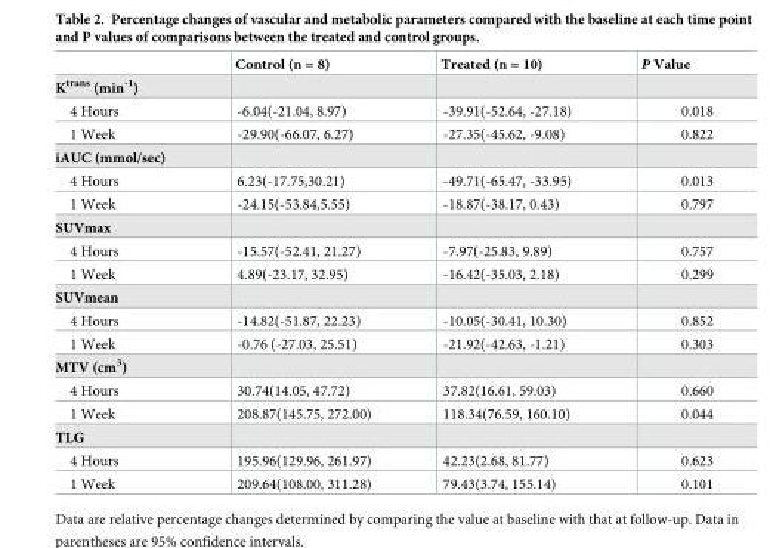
<table><thead><tr><td></td><td>Control (n = 8)</td><td>Treated (n = 10)</td><td>P Value</td></tr></thead><tbody><tr><td colspan="4">K<sup>trans</sup> (min<sup>-1</sup>)</td></tr><tr><td>4 Hours</td><td>-6.04(-21.04, 8.97)</td><td>-39.91(-52.64, -27.18)</td><td>0.018</td></tr><tr><td>1 Week</td><td>-29.90(-66.07, 6.27)</td><td>-27.35(-45.62, -9.08)</td><td>0.822</td></tr><tr><td colspan="4">iAUC (mmol/sec)</td></tr><tr><td>4 Hours</td><td>6.23(-17.75,30.21)</td><td>-49.71(-65.47, -33.95)</td><td>0.013</td></tr><tr><td>1 Week</td><td>-24.15(-53.84,5.55)</td><td>-18.87(-38.17, 0.43)</td><td>0.797</td></tr><tr><td colspan="4">SUVmax</td></tr><tr><td>4 Hours</td><td>-15.57(-52.41, 21.27)</td><td>-7.97(-25.83, 9.89)</td><td>0.757</td></tr><tr><td>1 Week</td><td>4.89(-23.17, 32.95)</td><td>-16.42(-35.03, 2.18)</td><td>0.299</td></tr><tr><td colspan="4">SUVmean</td></tr><tr><td>4 Hours</td><td>-14.82(-51.87, 22.23)</td><td>-10.05(-30.41, 10.30)</td><td>0.852</td></tr><tr><td>1 Week</td><td>-0.76 (-27.03, 25.51)</td><td>-21.92(-42.63, -1.21)</td><td>0.303</td></tr><tr><td colspan="4">MTV (cm<sup>3</sup>)</td></tr><tr><td>4 Hours</td><td>30.74(14.05, 47.72)</td><td>37.82(16.61, 59.03)</td><td>0.660</td></tr><tr><td>1 Week</td><td>208.87(145.75, 272.00)</td><td>118.34(76.59, 160.10)</td><td>0.044</td></tr><tr><td colspan="4">TLG</td></tr><tr><td>4 Hours</td><td>195.96(129.96, 261.97)</td><td>42.23(2.68, 81.77)</td><td>0.623</td></tr><tr><td>1 Week</td><td>209.64(108.00, 311.28)</td><td>79.43(3.74, 155.14)</td><td>0.101</td></tr></tbody></table>